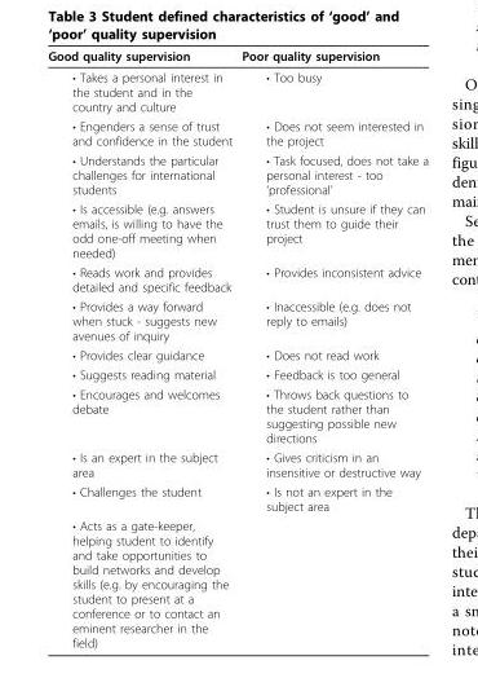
<table><thead><tr><td>Good quality supervision</td><td>Poor quality supervision</td></tr></thead><tbody><tr><td>• Takes a personal interest in the student and in the country and culture</td><td>• Too busy</td></tr><tr><td>• Engenders a sense of trust and confidence in the student</td><td>• Does not seem interested in the project</td></tr><tr><td>• Understands the particular challenges for international students</td><td>• Task focused, does not take a personal interest - too ‘professional’</td></tr><tr><td>• Is accessible (e.g. answers emails, is willing to have the odd one-off meeting when needed)</td><td>• Student is unsure if they can trust them to guide their project</td></tr><tr><td>• Reads work and provides detailed and specific feedback</td><td>• Provides inconsistent advice</td></tr><tr><td>• Provides a way forward when stuck - suggests new avenues of inquiry</td><td>• Inaccessible (e.g. does not reply to emails)</td></tr><tr><td>• Provides clear guidance</td><td>• Does not read work</td></tr><tr><td>• Suggests reading material</td><td>• Feedback is too general</td></tr><tr><td>• Encourages and welcomes debate</td><td>• Throws back questions to the student rather than suggesting possible new directions</td></tr><tr><td>• Is an expert in the subject area</td><td>• Gives criticism in an insensitive or destructive way</td></tr><tr><td>• Challenges the student</td><td>• Is not an expert in the subject area</td></tr><tr><td>• Acts as a gate-keeper, helping student to identify and take opportunities to build networks and develop skills (e.g. by encouraging the student to present at a conference or to contact an eminent researcher in the field)</td><td></td></tr></tbody></table>